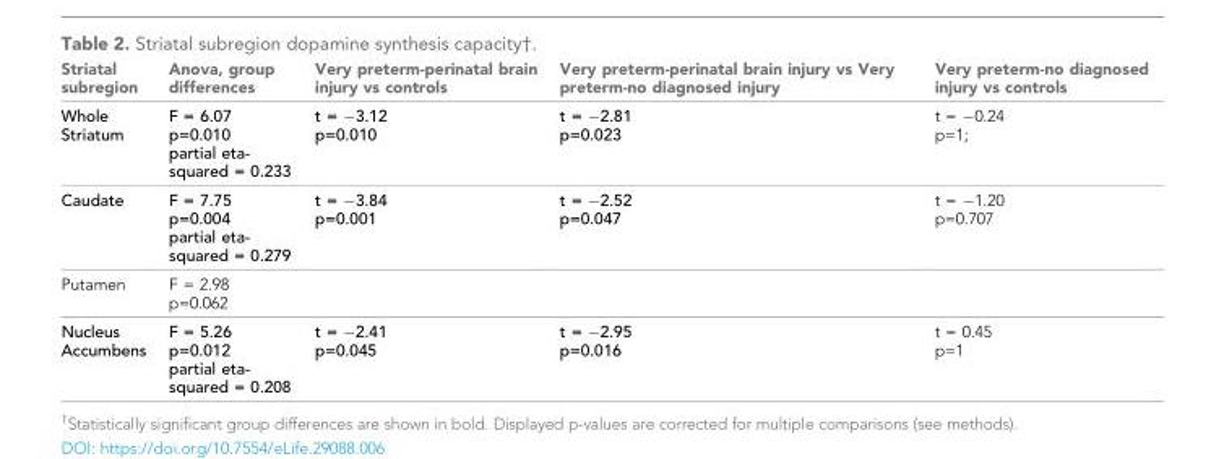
<table><thead><tr><td>Striatal subregion</td><td>Anova, group differences</td><td>Very preterm-perinatal brain injury vs controls</td><td>Very preterm-perinatal brain injury vs Very preterm-no diagnosed injury</td><td>Very preterm-no diagnosed injury vs controls</td></tr></thead><tbody><tr><td>Whole Striatum</td><td>F = 6.07 p=0.010 partial eta- squared = 0.233</td><td>t = −3.12 p=0.010</td><td>t = −2.81 p=0.023</td><td>t = −0.24 p=1;</td></tr><tr><td>Caudate</td><td>F = 7.75 p=0.004 partial eta- squared = 0.279</td><td>t = −3.84 p=0.001</td><td>t = −2.52 p=0.047</td><td>t = −1.20 p=0.707</td></tr><tr><td>Putamen</td><td>F = 2.98 p=0.062</td><td></td><td></td><td></td></tr><tr><td>Nucleus Accumbens</td><td>F = 5.26 p=0.012 partial eta- squared = 0.208</td><td>t = −2.41 p=0.045</td><td>t = −2.95 p=0.016</td><td>t = 0.45 p=1</td></tr></tbody></table>